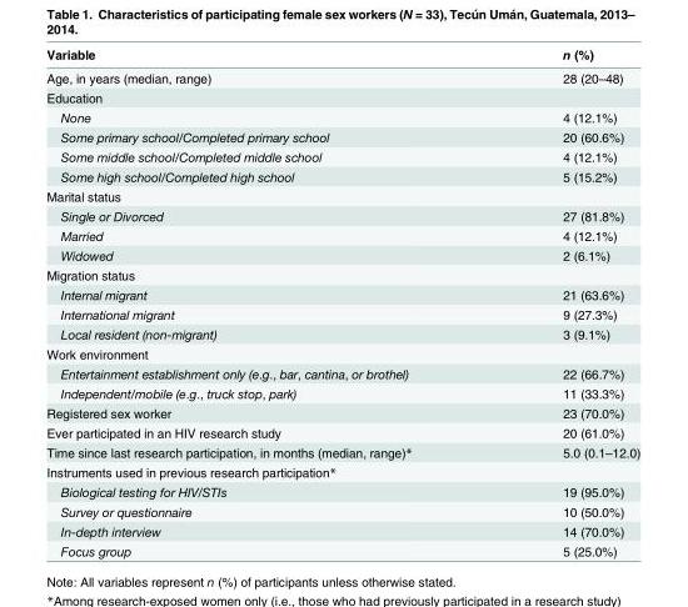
<table><thead><tr><td>Variable</td><td>n (%)</td></tr></thead><tbody><tr><td>Age, in years (median, range)</td><td>28 (20–48)</td></tr><tr><td colspan="2">Education</td></tr><tr><td>None</td><td>4 (12.1%)</td></tr><tr><td>Some primary school/Completed primary school</td><td>20 (60.6%)</td></tr><tr><td>Some middle school/Completed middle school</td><td>4 (12.1%)</td></tr><tr><td>Some high school/Completed high school</td><td>5 (15.2%)</td></tr><tr><td colspan="2">Marital status</td></tr><tr><td>Single or Divorced</td><td>27 (81.8%)</td></tr><tr><td>Married</td><td>4 (12.1%)</td></tr><tr><td>Widowed</td><td>2 (6.1%)</td></tr><tr><td colspan="2">Migration status</td></tr><tr><td>Internal migrant</td><td>21 (63.6%)</td></tr><tr><td>International migrant</td><td>9 (27.3%)</td></tr><tr><td>Local resident (non-migrant)</td><td>3 (9.1%)</td></tr><tr><td colspan="2">Work environment</td></tr><tr><td>Entertainment establishment only (e.g., bar, cantina, or brothel)</td><td>22 (66.7%)</td></tr><tr><td>Independent/mobile (e.g., truck stop, park)</td><td>11 (33.3%)</td></tr><tr><td>Registered sex worker</td><td>23 (70.0%)</td></tr><tr><td>Ever participated in an HIV research study</td><td>20 (61.0%)</td></tr><tr><td>Time since last research participation, in months (median, range)*</td><td>5.0 (0.1–12.0)</td></tr><tr><td colspan="2">Instruments used in previous research participation*</td></tr><tr><td>Biological testing for HIV/STIs</td><td>19 (95.0%)</td></tr><tr><td>Survey or questionnaire</td><td>10 (50.0%)</td></tr><tr><td>In-depth interview</td><td>14 (70.0%)</td></tr><tr><td>Focus group</td><td>5 (25.0%)</td></tr></tbody></table>